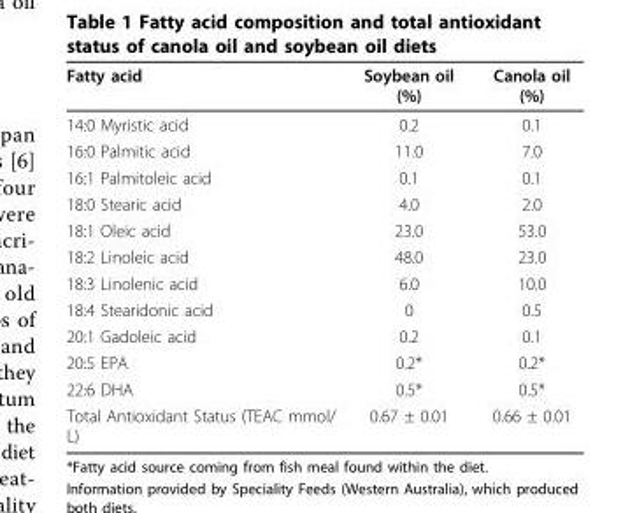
<table><thead><tr><td>Fatty acid</td><td>Soybean oil (%)</td><td>Canola oil (%)</td></tr></thead><tbody><tr><td>14:0 Myristic acid</td><td>0.2</td><td>0.1</td></tr><tr><td>16:0 Palmitic acid</td><td>11.0</td><td>7.0</td></tr><tr><td>16:1 Palmitoleic acid</td><td>0.1</td><td>0.1</td></tr><tr><td>18:0 Stearic acid</td><td>4.0</td><td>2.0</td></tr><tr><td>18:1 Oleic acid</td><td>23.0</td><td>53.0</td></tr><tr><td>18:2 Linoleic acid</td><td>48.0</td><td>23.0</td></tr><tr><td>18:3 Linolenic acid</td><td>6.0</td><td>10.0</td></tr><tr><td>18:4 Stearidonic acid</td><td>0</td><td>0.5</td></tr><tr><td>20:1 Gadoleic acid</td><td>0.2</td><td>0.1</td></tr><tr><td>20:5 EPA</td><td>0.2*</td><td>0.2*</td></tr><tr><td>22:6 DHA</td><td>0.5*</td><td>0.5*</td></tr><tr><td>Total Antioxidant Status (TEAC mmol/ L)</td><td>0.67 ± 0.01</td><td>0.66 ± 0.01</td></tr></tbody></table>